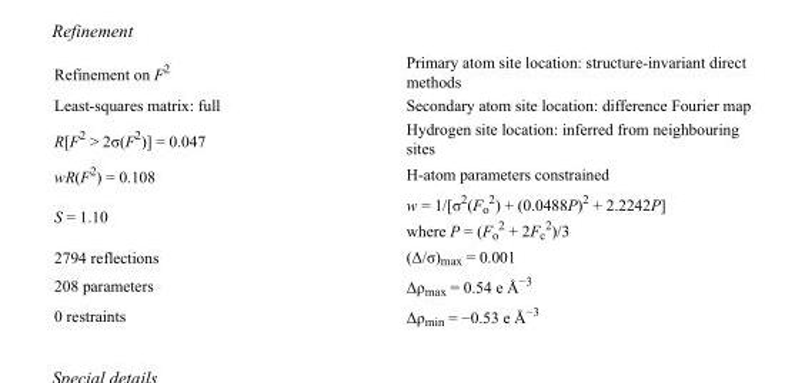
<table><tbody><tr><td>Refinement on F<sup>2</sup></td><td>Primary atom site location: structure-invariant direct methods</td></tr><tr><td>Least-squares matrix: full</td><td>Secondary atom site location: difference Fourier map</td></tr><tr><td>R[F<sup>2</sup> &gt; 2σ(F<sup>2</sup>)] = 0.047</td><td>Hydrogen site location: inferred from neighbouring sites</td></tr><tr><td>wR(F<sup>2</sup>) = 0.108</td><td>H-atom parameters constrained</td></tr><tr><td>S = 1.10</td><td>w = 1/[σ<sup>2</sup>(F<sub>o</sub> <sup>2</sup>) + (0.0488P)<sup>2</sup> + 2.2242P] where P = (F<sub>o</sub> <sup>2</sup> + 2F<sub>c</sub> <sup>2</sup>)/3</td></tr><tr><td>2794 reflections</td><td>(Δ/σ)<sub>max</sub> = 0.001</td></tr><tr><td>208 parameters</td><td>Δρ<sub>max</sub> = 0.54 e Å<sup>−3</sup></td></tr><tr><td>0 restraints</td><td>Δρ<sub>min</sub> = −0.53 e Å<sup>−3</sup></td></tr></tbody></table>